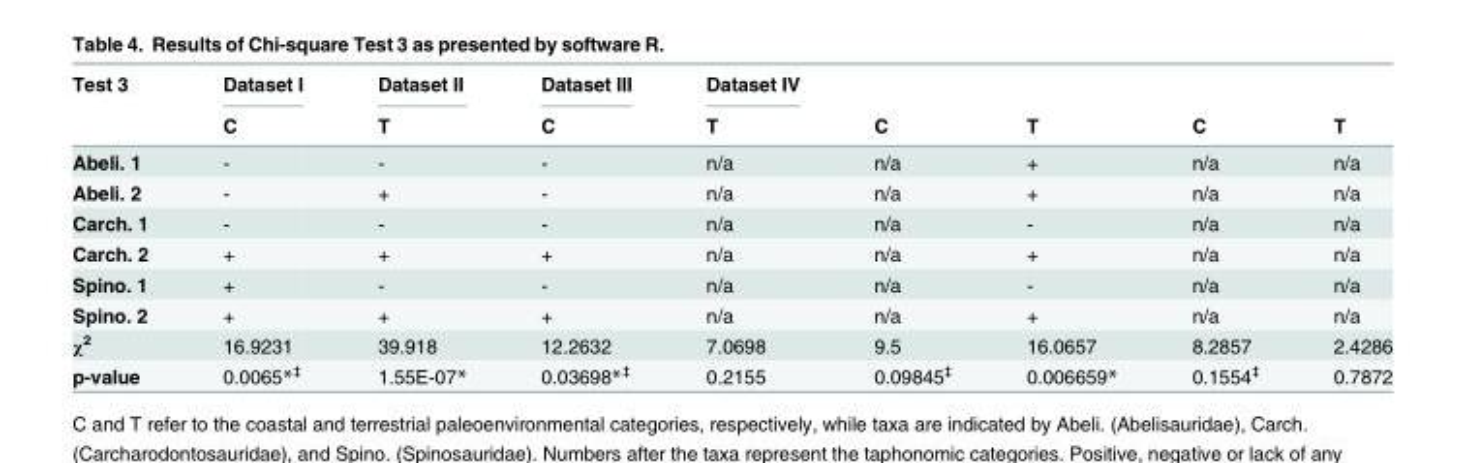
<table><thead><tr><td rowspan="2">Test 3</td><td rowspan="2">Dataset I C</td><td rowspan="2">Dataset II T</td><td rowspan="2">Dataset III C</td><td rowspan="2">Dataset IV T</td><td rowspan="2">C</td><td rowspan="2">T</td><td rowspan="2">C</td><td rowspan="2">T</td></tr><tr></tr></thead><tbody><tr><td>Abeli. 1</td><td>-</td><td>-</td><td>-</td><td>n/a</td><td>n/a</td><td>+</td><td>n/a</td><td>n/a</td></tr><tr><td>Abeli. 2</td><td>-</td><td>+</td><td>-</td><td>n/a</td><td>n/a</td><td>+</td><td>n/a</td><td>n/a</td></tr><tr><td>Carch. 1</td><td>-</td><td>-</td><td>-</td><td>n/a</td><td>n/a</td><td>-</td><td>n/a</td><td>n/a</td></tr><tr><td>Carch. 2</td><td>+</td><td>+</td><td>+</td><td>n/a</td><td>n/a</td><td>+</td><td>n/a</td><td>n/a</td></tr><tr><td>Spino. 1</td><td>+</td><td>-</td><td>-</td><td>n/a</td><td>n/a</td><td>-</td><td>n/a</td><td>n/a</td></tr><tr><td>Spino. 2</td><td>+</td><td>+</td><td>+</td><td>n/a</td><td>n/a</td><td>+</td><td>n/a</td><td>n/a</td></tr><tr><td>χ<sup>2</sup></td><td>16.9231</td><td>39.918</td><td>12.2632</td><td>7.0698</td><td>9.5</td><td>16.0657</td><td>8.2857</td><td>2.4286</td></tr><tr><td>p-value</td><td>0.0065*<sup>‡</sup></td><td>1.55E-07*</td><td>0.03698*<sup>‡</sup></td><td>0.2155</td><td>0.09845<sup>‡</sup></td><td>0.006659*</td><td>0.1554<sup>‡</sup></td><td>0.7872</td></tr></tbody></table>